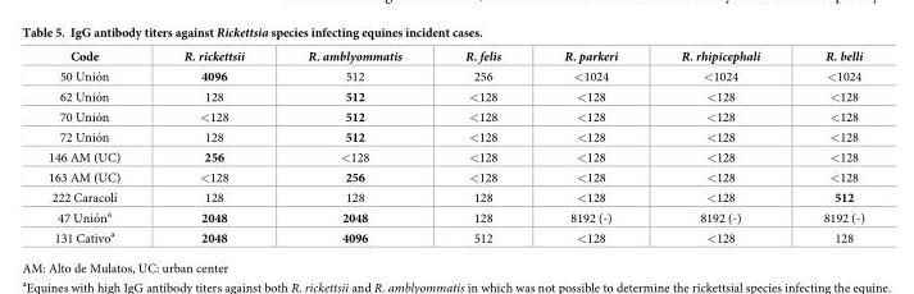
<table><thead><tr><td>Code</td><td>R. rickettsii</td><td>R. amblyommatis</td><td>R. felis</td><td>R. parkeri</td><td>R. rhipicephali</td><td>R. belli</td></tr></thead><tbody><tr><td>50 Unio´n</td><td>4096</td><td>512</td><td>256</td><td>&lt;1024</td><td>&lt;1024</td><td>&lt;1024</td></tr><tr><td>62 Unio´n</td><td>128</td><td>512</td><td>&lt;128</td><td>&lt;128</td><td>&lt;128</td><td>&lt;128</td></tr><tr><td>70 Unio´n</td><td>&lt;128</td><td>512</td><td>&lt;128</td><td>&lt;128</td><td>&lt;128</td><td>&lt;128</td></tr><tr><td>72 Unio´n</td><td>128</td><td>512</td><td>&lt;128</td><td>&lt;128</td><td>&lt;128</td><td>&lt;128</td></tr><tr><td>146 AM (UC)</td><td>256</td><td>&lt;128</td><td>&lt;128</td><td>&lt;128</td><td>&lt;128</td><td>&lt;128</td></tr><tr><td>163 AM (UC)</td><td>&lt;128</td><td>256</td><td>&lt;128</td><td>&lt;128</td><td>&lt;128</td><td>&lt;128</td></tr><tr><td>222 Caracolı´</td><td>128</td><td>128</td><td>128</td><td>&lt;128</td><td>&lt;128</td><td>512</td></tr><tr><td>47 Unio´na</td><td>2048</td><td>2048</td><td>128</td><td>8192 (-)</td><td>8192 (-)</td><td>8192 (-)</td></tr><tr><td>131 Cativo<sup>a</sup></td><td>2048</td><td>4096</td><td>512</td><td>&lt;128</td><td>&lt;128</td><td>128</td></tr></tbody></table>